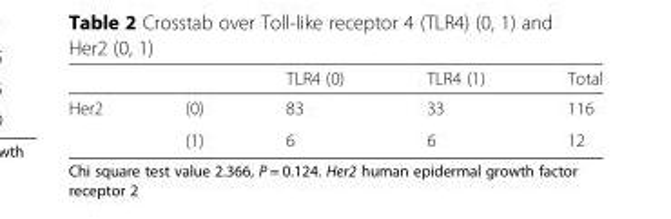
<table><thead><tr><td></td><td></td><td>TLR4 (0)</td><td>TLR4 (1)</td><td>Total</td></tr></thead><tbody><tr><td rowspan="2">Her2</td><td>(0)</td><td>83</td><td>33</td><td>116</td></tr><tr><td>(1)</td><td>6</td><td>6</td><td>12</td></tr></tbody></table>